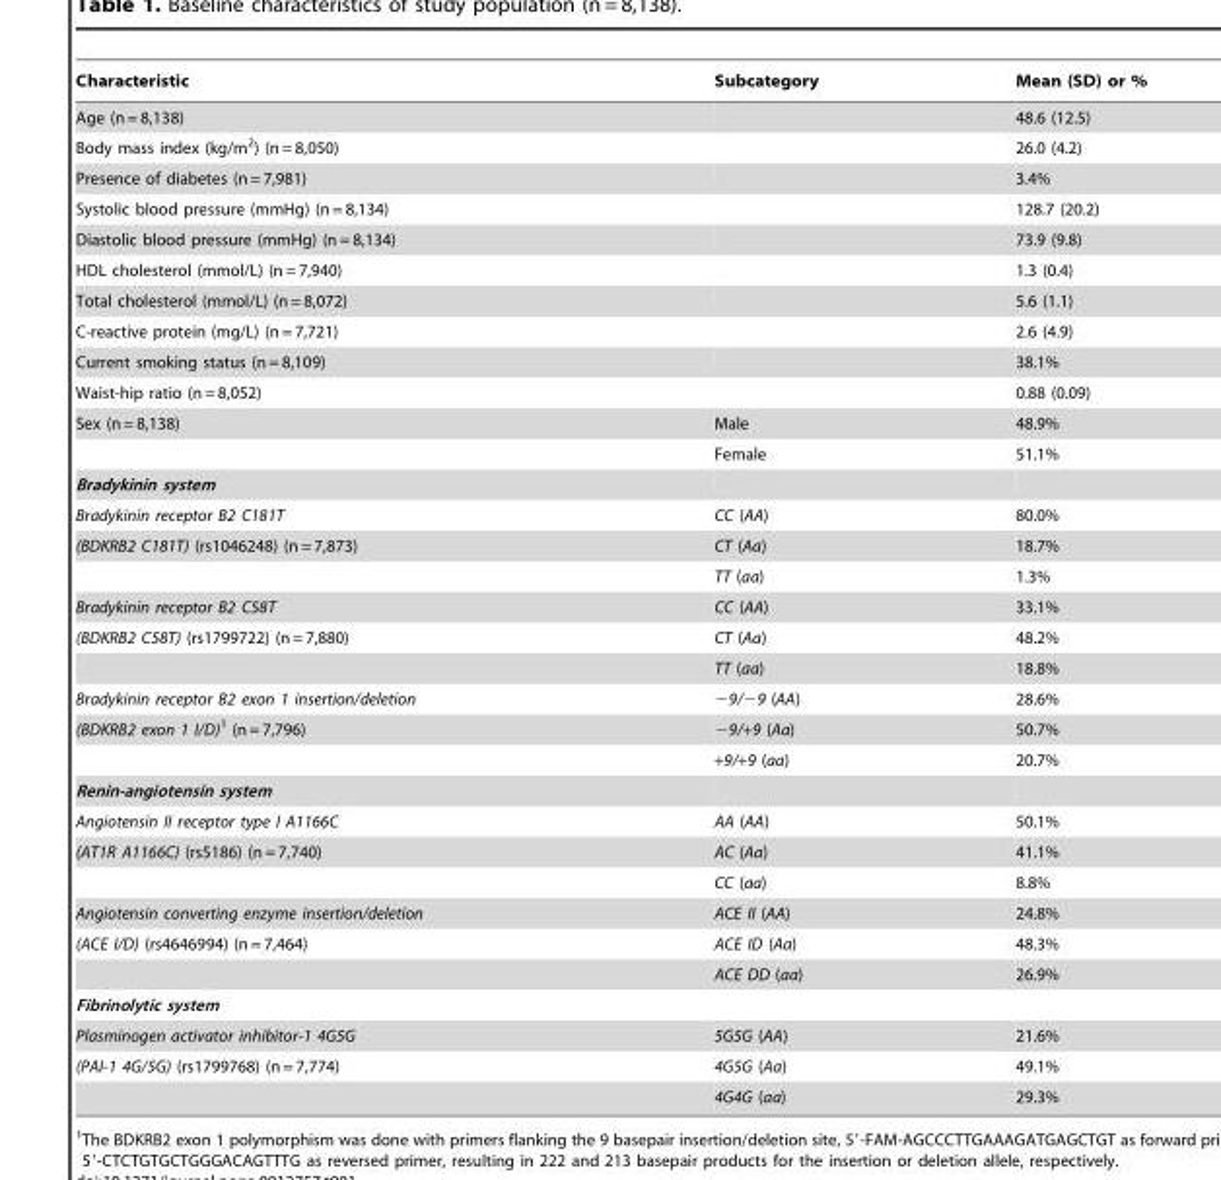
<table><thead><tr><td>Characteristic</td><td>Subcategory</td><td>Mean (SD) or %</td></tr></thead><tbody><tr><td>Age (n = 8,138)</td><td></td><td>48.6 (12.5)</td></tr><tr><td>Body mass index (kg/m<sup>2</sup>) (n = 8,050)</td><td></td><td>26.0 (4.2)</td></tr><tr><td>Presence of diabetes (n = 7,981)</td><td></td><td>3.4%</td></tr><tr><td>Systolic blood pressure (mmHg) (n = 8,134)</td><td></td><td>128.7 (20.2)</td></tr><tr><td>Diastolic blood pressure (mmHg) (n = 8,134)</td><td></td><td>73.9 (9.8)</td></tr><tr><td>HDL cholesterol (mmol/L) (n = 7,940)</td><td></td><td>1.3 (0.4)</td></tr><tr><td>Total cholesterol (mmol/L) (n = 8,072)</td><td></td><td>5.6 (1.1)</td></tr><tr><td>C-reactive protein (mg/L) (n = 7,721)</td><td></td><td>2.6 (4.9)</td></tr><tr><td>Current smoking status (n = 8,109)</td><td></td><td>38.1%</td></tr><tr><td>Waist-hip ratio (n = 8,052)</td><td></td><td>0.88 (0.09)</td></tr><tr><td rowspan="2">Sex (n = 8,138)</td><td>Male</td><td>48.9%</td></tr><tr><td>Female</td><td>51.1%</td></tr><tr><td colspan="3">Bradykinin system</td></tr><tr><td>Bradykinin receptor B2 C181T</td><td>CC (AA)</td><td>80.0%</td></tr><tr><td rowspan="2">(BDKRB2 C181T) (rs1046248) (n = 7,873)</td><td>CT (Aa)</td><td>18.7%</td></tr><tr><td>TT (aa)</td><td>1.3%</td></tr><tr><td>Bradykinin receptor B2 C58T</td><td>CC (AA)</td><td>33.1%</td></tr><tr><td rowspan="2">(BDKRB2 C58T) (rs1799722) (n = 7,880)</td><td>CT (Aa)</td><td>48.2%</td></tr><tr><td>TT (aa)</td><td>18.8%</td></tr><tr><td>Bradykinin receptor B2 exon 1 insertion/deletion</td><td>−9/−9 (AA)</td><td>28.6%</td></tr><tr><td rowspan="2">(BDKRB2 exon 1 I/D)1 (n = 7,796)</td><td>−9/+9 (Aa)</td><td>50.7%</td></tr><tr><td>+9/+9 (aa)</td><td>20.7%</td></tr><tr><td colspan="3">Renin-angiotensin system</td></tr><tr><td>Angiotensin II receptor type I A1166C</td><td>AA (AA)</td><td>50.1%</td></tr><tr><td rowspan="2">(AT1R A1166C) (rs5186) (n = 7,740)</td><td>AC (Aa)</td><td>41.1%</td></tr><tr><td>CC (aa)</td><td>8.8%</td></tr><tr><td>Angiotensin converting enzyme insertion/deletion</td><td>ACE II (AA)</td><td>24.8%</td></tr><tr><td rowspan="2">(ACE I/D) (rs4646994) (n = 7,464)</td><td>ACE ID (Aa)</td><td>48.3%</td></tr><tr><td>ACE DD (aa)</td><td>26.9%</td></tr><tr><td colspan="3">Fibrinolytic system</td></tr><tr><td>Plasminogen activator inhibitor-1 4G5G</td><td>5G5G (AA)</td><td>21.6%</td></tr><tr><td rowspan="2">(PAI-1 4G/5G) (rs1799768) (n = 7,774)</td><td>4G5G (Aa)</td><td>49.1%</td></tr><tr><td>4G4G (aa)</td><td>29.3%</td></tr></tbody></table>